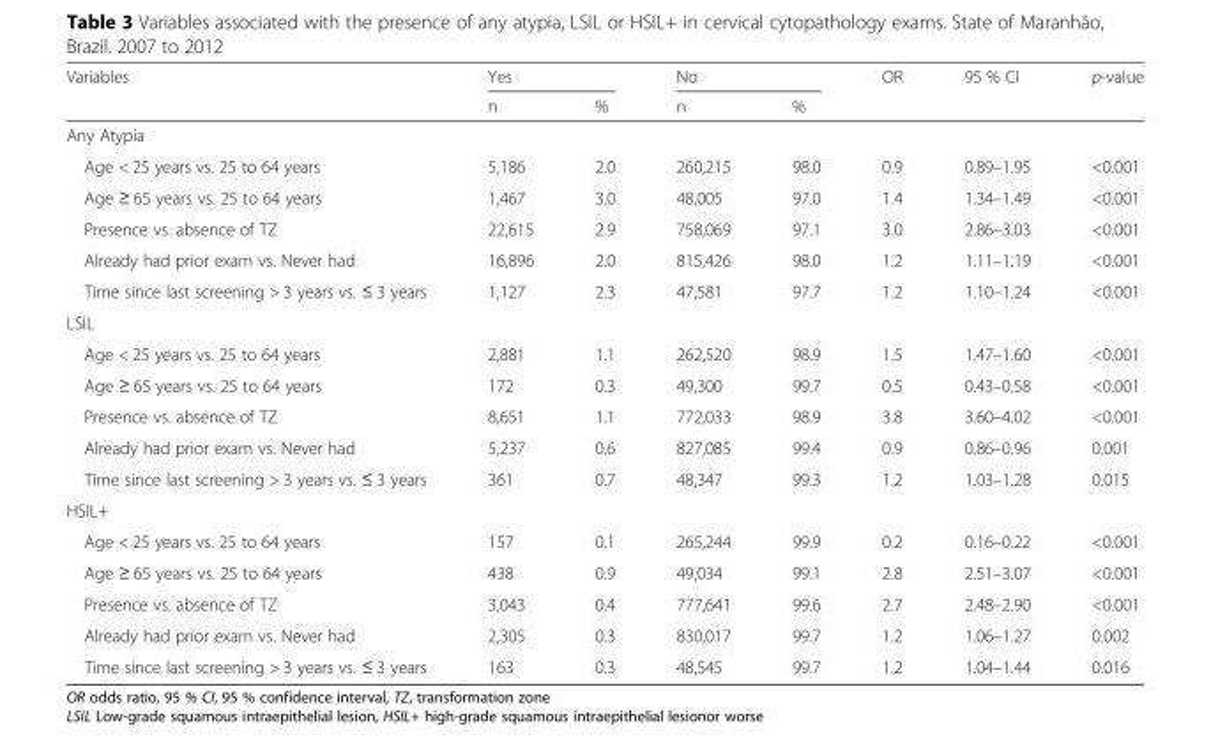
<table><thead><tr><td rowspan="2">Variables</td><td colspan="2">Yes</td><td colspan="2">No</td><td rowspan="2">OR</td><td rowspan="2">95 % CI</td><td rowspan="2">p-value</td></tr><tr><td>n</td><td>%</td><td>n</td><td>%</td></tr></thead><tbody><tr><td colspan="8">Any Atypia</td></tr><tr><td>Age &lt; 25 years vs. 25 to 64 years</td><td>5,186</td><td>2.0</td><td>260,215</td><td>98.0</td><td>0.9</td><td>0.89–1.95</td><td>&lt;0.001</td></tr><tr><td>Age ≥ 65 years vs. 25 to 64 years</td><td>1,467</td><td>3.0</td><td>48,005</td><td>97.0</td><td>1.4</td><td>1.34–1.49</td><td>&lt;0.001</td></tr><tr><td>Presence vs. absence of TZ</td><td>22,615</td><td>2.9</td><td>758,069</td><td>97.1</td><td>3.0</td><td>2.86–3.03</td><td>&lt;0.001</td></tr><tr><td>Already had prior exam vs. Never had</td><td>16,896</td><td>2.0</td><td>815,426</td><td>98.0</td><td>1.2</td><td>1.11–1.19</td><td>&lt;0.001</td></tr><tr><td>Time since last screening &gt; 3 years vs. ≤ 3 years</td><td>1,127</td><td>2.3</td><td>47,581</td><td>97.7</td><td>1.2</td><td>1.10–1.24</td><td>&lt;0.001</td></tr><tr><td colspan="8">LSIL</td></tr><tr><td>Age &lt; 25 years vs. 25 to 64 years</td><td>2,881</td><td>1.1</td><td>262,520</td><td>98.9</td><td>1.5</td><td>1.47–1.60</td><td>&lt;0.001</td></tr><tr><td>Age ≥ 65 years vs. 25 to 64 years</td><td>172</td><td>0.3</td><td>49,300</td><td>99.7</td><td>0.5</td><td>0.43–0.58</td><td>&lt;0.001</td></tr><tr><td>Presence vs. absence of TZ</td><td>8,651</td><td>1.1</td><td>772,033</td><td>98.9</td><td>3.8</td><td>3.60–4.02</td><td>&lt;0.001</td></tr><tr><td>Already had prior exam vs. Never had</td><td>5,237</td><td>0.6</td><td>827,085</td><td>99.4</td><td>0.9</td><td>0.86–0.96</td><td>0.001</td></tr><tr><td>Time since last screening &gt; 3 years vs. ≤ 3 years</td><td>361</td><td>0.7</td><td>48,347</td><td>99.3</td><td>1.2</td><td>1.03–1.28</td><td>0.015</td></tr><tr><td colspan="8">HSIL+</td></tr><tr><td>Age &lt; 25 years vs. 25 to 64 years</td><td>157</td><td>0.1</td><td>265,244</td><td>99.9</td><td>0.2</td><td>0.16–0.22</td><td>&lt;0.001</td></tr><tr><td>Age ≥ 65 years vs. 25 to 64 years</td><td>438</td><td>0.9</td><td>49,034</td><td>99.1</td><td>2.8</td><td>2.51–3.07</td><td>&lt;0.001</td></tr><tr><td>Presence vs. absence of TZ</td><td>3,043</td><td>0.4</td><td>777,641</td><td>99.6</td><td>2.7</td><td>2.48–2.90</td><td>&lt;0.001</td></tr><tr><td>Already had prior exam vs. Never had</td><td>2,305</td><td>0.3</td><td>830,017</td><td>99.7</td><td>1.2</td><td>1.06–1.27</td><td>0.002</td></tr><tr><td>Time since last screening &gt; 3 years vs. ≤ 3 years</td><td>163</td><td>0.3</td><td>48,545</td><td>99.7</td><td>1.2</td><td>1.04–1.44</td><td>0.016</td></tr></tbody></table>